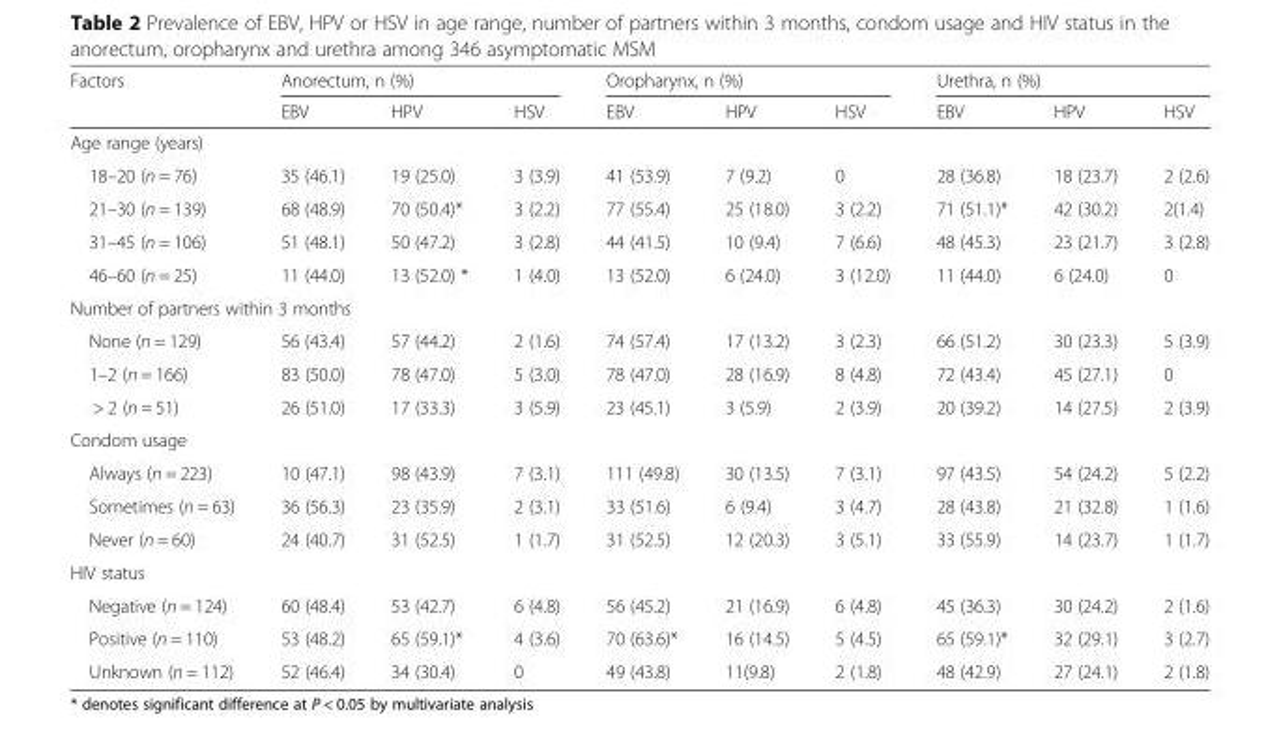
<table><thead><tr><td rowspan="2">Factors</td><td colspan="3">Anorectum, n (%)</td><td colspan="3">Oropharynx, n (%)</td><td colspan="3">Urethra, n (%)</td></tr><tr><td>EBV</td><td>HPV</td><td>HSV</td><td>EBV</td><td>HPV</td><td>HSV</td><td>EBV</td><td>HPV</td><td>HSV</td></tr></thead><tbody><tr><td colspan="10">Age range (years)</td></tr><tr><td>18–20 (n = 76)</td><td>35 (46.1)</td><td>19 (25.0)</td><td>3 (3.9)</td><td>41 (53.9)</td><td>7 (9.2)</td><td>0</td><td>28 (36.8)</td><td>18 (23.7)</td><td>2 (2.6)</td></tr><tr><td>21–30 (n = 139)</td><td>68 (48.9)</td><td>70 (50.4)*</td><td>3 (2.2)</td><td>77 (55.4)</td><td>25 (18.0)</td><td>3 (2.2)</td><td>71 (51.1)*</td><td>42 (30.2)</td><td>2(1.4)</td></tr><tr><td>31–45 (n = 106)</td><td>51 (48.1)</td><td>50 (47.2)</td><td>3 (2.8)</td><td>44 (41.5)</td><td>10 (9.4)</td><td>7 (6.6)</td><td>48 (45.3)</td><td>23 (21.7)</td><td>3 (2.8)</td></tr><tr><td>46–60 (n = 25)</td><td>11 (44.0)</td><td>13 (52.0) *</td><td>1 (4.0)</td><td>13 (52.0)</td><td>6 (24.0)</td><td>3 (12.0)</td><td>11 (44.0)</td><td>6 (24.0)</td><td>0</td></tr><tr><td colspan="10">Number of partners within 3 months</td></tr><tr><td>None (n = 129)</td><td>56 (43.4)</td><td>57 (44.2)</td><td>2 (1.6)</td><td>74 (57.4)</td><td>17 (13.2)</td><td>3 (2.3)</td><td>66 (51.2)</td><td>30 (23.3)</td><td>5 (3.9)</td></tr><tr><td>1–2 (n = 166)</td><td>83 (50.0)</td><td>78 (47.0)</td><td>5 (3.0)</td><td>78 (47.0)</td><td>28 (16.9)</td><td>8 (4.8)</td><td>72 (43.4)</td><td>45 (27.1)</td><td>0</td></tr><tr><td>&gt; 2 (n = 51)</td><td>26 (51.0)</td><td>17 (33.3)</td><td>3 (5.9)</td><td>23 (45.1)</td><td>3 (5.9)</td><td>2 (3.9)</td><td>20 (39.2)</td><td>14 (27.5)</td><td>2 (3.9)</td></tr><tr><td colspan="10">Condom usage</td></tr><tr><td>Always (n = 223)</td><td>10 (47.1)</td><td>98 (43.9)</td><td>7 (3.1)</td><td>111 (49.8)</td><td>30 (13.5)</td><td>7 (3.1)</td><td>97 (43.5)</td><td>54 (24.2)</td><td>5 (2.2)</td></tr><tr><td>Sometimes (n = 63)</td><td>36 (56.3)</td><td>23 (35.9)</td><td>2 (3.1)</td><td>33 (51.6)</td><td>6 (9.4)</td><td>3 (4.7)</td><td>28 (43.8)</td><td>21 (32.8)</td><td>1 (1.6)</td></tr><tr><td>Never (n = 60)</td><td>24 (40.7)</td><td>31 (52.5)</td><td>1 (1.7)</td><td>31 (52.5)</td><td>12 (20.3)</td><td>3 (5.1)</td><td>33 (55.9)</td><td>14 (23.7)</td><td>1 (1.7)</td></tr><tr><td colspan="10">HIV status</td></tr><tr><td>Negative (n = 124)</td><td>60 (48.4)</td><td>53 (42.7)</td><td>6 (4.8)</td><td>56 (45.2)</td><td>21 (16.9)</td><td>6 (4.8)</td><td>45 (36.3)</td><td>30 (24.2)</td><td>2 (1.6)</td></tr><tr><td>Positive (n = 110)</td><td>53 (48.2)</td><td>65 (59.1)*</td><td>4 (3.6)</td><td>70 (63.6)*</td><td>16 (14.5)</td><td>5 (4.5)</td><td>65 (59.1)*</td><td>32 (29.1)</td><td>3 (2.7)</td></tr><tr><td>Unknown (n = 112)</td><td>52 (46.4)</td><td>34 (30.4)</td><td>0</td><td>49 (43.8)</td><td>11(9.8)</td><td>2 (1.8)</td><td>48 (42.9)</td><td>27 (24.1)</td><td>2 (1.8)</td></tr></tbody></table>